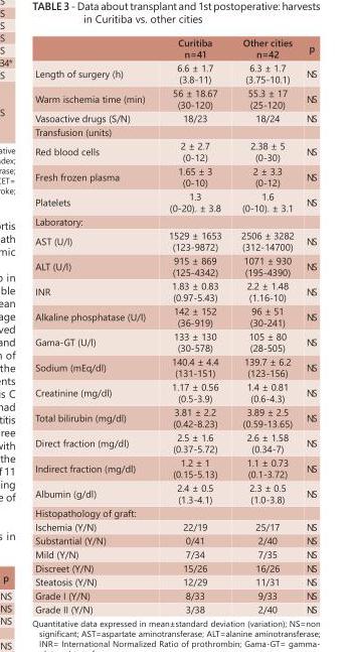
<table><thead><tr><td></td><td>Curitiba n=41</td><td>Other cities n=42</td><td>p</td></tr></thead><tbody><tr><td>Length of surgery (h)</td><td>6.6 ± 1.7 (3.8-11)</td><td>6.3 ± 1.7 (3.75-10.1)</td><td>NS</td></tr><tr><td>Warm ischemia time (min)</td><td>56 ± 18.67 (30-120)</td><td>55.3 ± 17 (25-120)</td><td>NS</td></tr><tr><td>Vasoactive drugs (S/N)</td><td>18/23</td><td>18/24</td><td>NS</td></tr><tr><td colspan="4">Transfusion (units)</td></tr><tr><td>Red blood cells</td><td>2 ± 2.7 (0-12)</td><td>2.38 ± 5 (0-30)</td><td>NS</td></tr><tr><td>Fresh frozen plasma</td><td>1.65 ± 3 (0-10)</td><td>2 ± 3.3 (0-12)</td><td>NS</td></tr><tr><td>Platelets</td><td>1.3 (0-20). ± 3.8</td><td>1.6 (0-10). ± 3.1</td><td>NS</td></tr><tr><td colspan="4">Laboratory:</td></tr><tr><td>AST (U/l)</td><td>1529 ± 1653 (123-9872)</td><td>2506 ± 3282 (312-14700)</td><td>NS</td></tr><tr><td>ALT (U/l)</td><td>915 ± 869 (125-4342)</td><td>1071 ± 930 (195-4390)</td><td>NS</td></tr><tr><td>INR</td><td>1.83 ± 0.83 (0.97-5.43)</td><td>2.2 ± 1.48 (1.16-10)</td><td>NS</td></tr><tr><td>Alkaline phosphatase (U/l)</td><td>142 ± 152 (36-919)</td><td>96 ± 51 (30-241)</td><td>NS</td></tr><tr><td>Gama-GT (U/l)</td><td>133 ± 130 (30-578)</td><td>105 ± 80 (28-505)</td><td>NS</td></tr><tr><td>Sodium (mEq/dl)</td><td>140.4 ± 4.4 (131-151)</td><td>139.7 ± 6.2 (123-156)</td><td>NS</td></tr><tr><td>Creatinine (mg/dl)</td><td>1.17 ± 0.56 (0.5-3.9)</td><td>1.4 ± 0.81 (0.6-4.3)</td><td>NS</td></tr><tr><td>Total bilirubin (mg/dl)</td><td>3.81 ± 2.2 (0.42-8.23)</td><td>3.89 ± 2.5 (0.59-13.65)</td><td>NS</td></tr><tr><td>Direct fraction (mg/dl)</td><td>2.5 ± 1.6 (0.37-5.72)</td><td>2.6 ± 1.58 (0.34-7)</td><td>NS</td></tr><tr><td>Indirect fraction (mg/dl)</td><td>1.2 ± 1 (0.15-5.13)</td><td>1.1 ± 0.73 (0.1-3.72)</td><td>NS</td></tr><tr><td>Albumin (g/dl)</td><td>2.4 ± 0.5 (1.3-4.1)</td><td>2.3 ± 0.5 (1.0-3.8)</td><td>NS</td></tr><tr><td colspan="4">Histopathology of graft:</td></tr><tr><td>Ischemia (Y/N)</td><td>22/19</td><td>25/17</td><td>NS</td></tr><tr><td>Substantial (Y/N)</td><td>0/41</td><td>2/40</td><td>NS</td></tr><tr><td>Mild (Y/N)</td><td>7/34</td><td>7/35</td><td>NS</td></tr><tr><td>Discreet (Y/N)</td><td>15/26</td><td>16/26</td><td>NS</td></tr><tr><td>Steatosis (Y/N)</td><td>12/29</td><td>11/31</td><td>NS</td></tr><tr><td>Grade I (Y/N)</td><td>8/33</td><td>9/33</td><td>NS</td></tr><tr><td>Grade II (Y/N)</td><td>3/38</td><td>2/40</td><td>NS</td></tr></tbody></table>